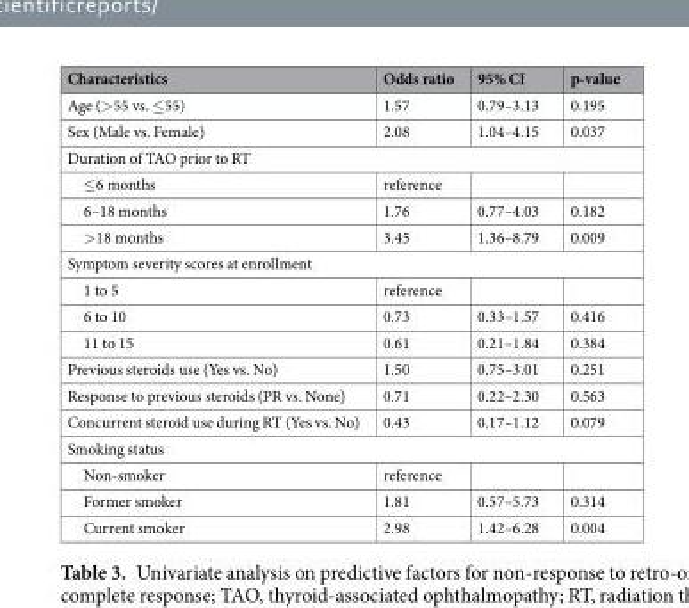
<table><thead><tr><td>Characteristics</td><td>Odds ratio</td><td>95% CI</td><td>p-value</td></tr></thead><tbody><tr><td>Age (&gt;55 vs. ≤55)</td><td>1.57</td><td>0.79–3.13</td><td>0.195</td></tr><tr><td>Sex (Male vs. Female)</td><td>2.08</td><td>1.04–4.15</td><td>0.037</td></tr><tr><td colspan="4">Duration of TAO prior to RT</td></tr><tr><td>≤6 months</td><td>reference</td><td></td><td></td></tr><tr><td>6–18 months</td><td>1.76</td><td>0.77–4.03</td><td>0.182</td></tr><tr><td>&gt;18 months</td><td>3.45</td><td>1.36–8.79</td><td>0.009</td></tr><tr><td colspan="4">Symptom severity scores at enrollment</td></tr><tr><td>1 to 5</td><td>reference</td><td></td><td></td></tr><tr><td>6 to 10</td><td>0.73</td><td>0.33–1.57</td><td>0.416</td></tr><tr><td>11 to 15</td><td>0.61</td><td>0.21–1.84</td><td>0.384</td></tr><tr><td>Previous steroids use (Yes vs. No)</td><td>1.50</td><td>0.75–3.01</td><td>0.251</td></tr><tr><td>Response to previous steroids (PR vs. None)</td><td>0.71</td><td>0.22–2.30</td><td>0.563</td></tr><tr><td>Concurrent steroid use during RT (Yes vs. No)</td><td>0.43</td><td>0.17–1.12</td><td>0.079</td></tr><tr><td colspan="4">Smoking status</td></tr><tr><td>Non-smoker</td><td>reference</td><td></td><td></td></tr><tr><td>Former smoker</td><td>1.81</td><td>0.57–5.73</td><td>0.314</td></tr><tr><td>Current smoker</td><td>2.98</td><td>1.42–6.28</td><td>0.004</td></tr></tbody></table>